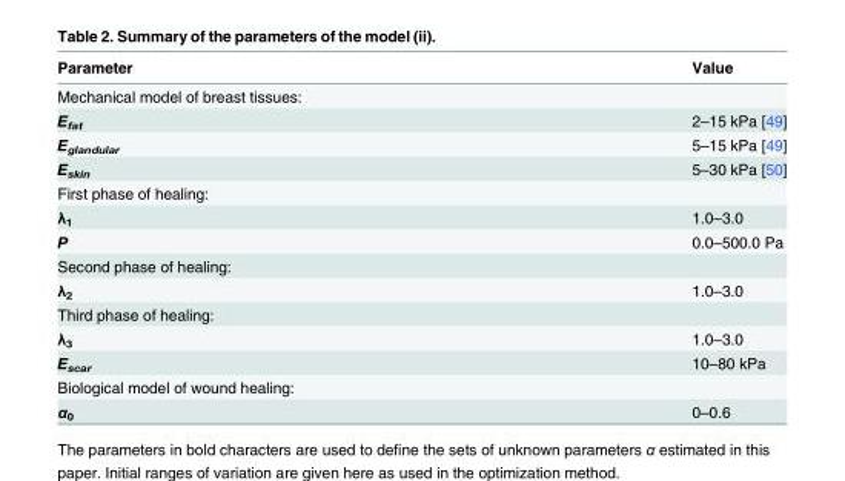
<table><thead><tr><td>Parameter</td><td>Value</td></tr></thead><tbody><tr><td colspan="2">Mechanical model of breast tissues:</td></tr><tr><td>E<sub>fat</sub></td><td>2–15 kPa [49]</td></tr><tr><td>E<sub>glandular</sub></td><td>5–15 kPa [49]</td></tr><tr><td>E<sub>skin</sub></td><td>5–30 kPa [50]</td></tr><tr><td colspan="2">First phase of healing:</td></tr><tr><td>λ<sub>1</sub></td><td>1.0–3.0</td></tr><tr><td>P</td><td>0.0–500.0 Pa</td></tr><tr><td colspan="2">Second phase of healing:</td></tr><tr><td>λ<sub>2</sub></td><td>1.0–3.0</td></tr><tr><td colspan="2">Third phase of healing:</td></tr><tr><td>λ<sub>3</sub></td><td>1.0–3.0</td></tr><tr><td>E<sub>scar</sub></td><td>10–80 kPa</td></tr><tr><td colspan="2">Biological model of wound healing:</td></tr><tr><td>α<sub>0</sub></td><td>0–0.6</td></tr></tbody></table>